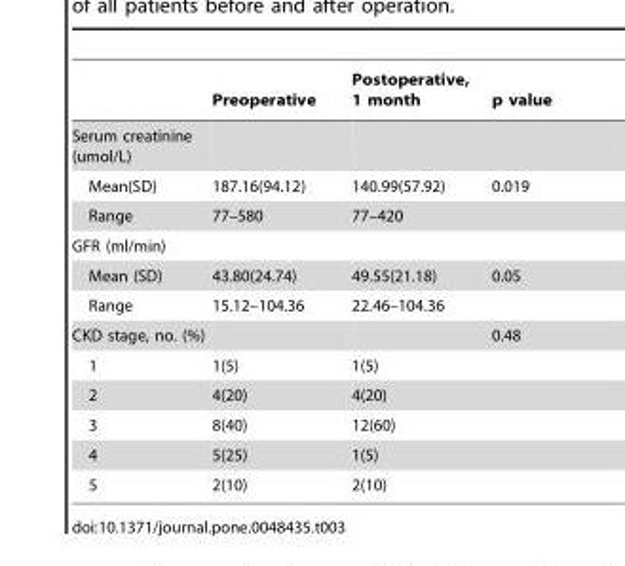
<table><thead><tr><td></td><td>Preoperative</td><td>Postoperative, 1 month</td><td>p value</td></tr></thead><tbody><tr><td colspan="4">Serum creatinine (umol/L)</td></tr><tr><td>Mean(SD)</td><td>187.16(94.12)</td><td>140.99(57.92)</td><td>0.019</td></tr><tr><td>Range</td><td>77–580</td><td>77–420</td><td></td></tr><tr><td colspan="4">GFR (ml/min)</td></tr><tr><td>Mean (SD)</td><td>43.80(24.74)</td><td>49.55(21.18)</td><td>0.05</td></tr><tr><td>Range</td><td>15.12–104.36</td><td>22.46–104.36</td><td></td></tr><tr><td>CKD stage, no. (%)</td><td></td><td></td><td>0.48</td></tr><tr><td>1</td><td>1(5)</td><td>1(5)</td><td></td></tr><tr><td>2</td><td>4(20)</td><td>4(20)</td><td></td></tr><tr><td>3</td><td>8(40)</td><td>12(60)</td><td></td></tr><tr><td>4</td><td>5(25)</td><td>1(5)</td><td></td></tr><tr><td>5</td><td>2(10)</td><td>2(10)</td><td></td></tr></tbody></table>